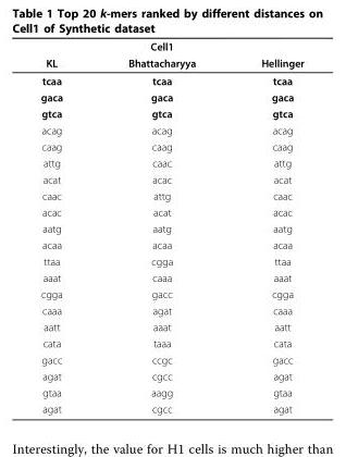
<table><thead><tr><td rowspan="2">KL</td><td rowspan="2">Cell1 Bhattacharyya</td><td rowspan="2">Hellinger</td></tr><tr></tr></thead><tbody><tr><td>tcaa</td><td>tcaa</td><td>tcaa</td></tr><tr><td>gaca</td><td>gaca</td><td>gaca</td></tr><tr><td>gtca</td><td>gtca</td><td>gtca</td></tr><tr><td>acag</td><td>acag</td><td>acag</td></tr><tr><td>caag</td><td>caag</td><td>caag</td></tr><tr><td>attg</td><td>caac</td><td>attg</td></tr><tr><td>acat</td><td>acac</td><td>acat</td></tr><tr><td>caac</td><td>attg</td><td>caac</td></tr><tr><td>acac</td><td>acat</td><td>acac</td></tr><tr><td>aatg</td><td>aatg</td><td>aatg</td></tr><tr><td>acaa</td><td>acaa</td><td>acaa</td></tr><tr><td>ttaa</td><td>cgga</td><td>ttaa</td></tr><tr><td>aaat</td><td>caaa</td><td>aaat</td></tr><tr><td>cgga</td><td>gacc</td><td>cgga</td></tr><tr><td>caaa</td><td>agat</td><td>caaa</td></tr><tr><td>aatt</td><td>aaat</td><td>aatt</td></tr><tr><td>cata</td><td>taaa</td><td>cata</td></tr><tr><td>gacc</td><td>ccgc</td><td>gacc</td></tr><tr><td>agat</td><td>cgcc</td><td>agat</td></tr><tr><td>gtaa</td><td>aagg</td><td>gtaa</td></tr><tr><td>agat</td><td>cgcc</td><td>agat</td></tr></tbody></table>